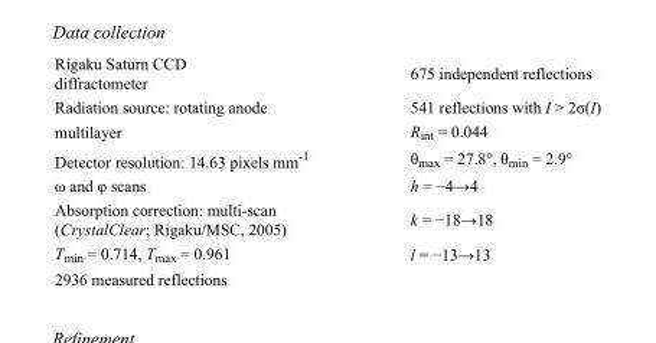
<table><tbody><tr><td>Rigaku Saturn CCD diffractometer</td><td>675 independent reflections</td></tr><tr><td>Radiation source: rotating anode</td><td>541 reflections with I &gt; 2σ(I)</td></tr><tr><td>multilayer</td><td>R<sub>int</sub> = 0.044</td></tr><tr><td>Detector resolution: 14.63 pixels mm<sup>-1</sup></td><td>θ<sub>max</sub> = 27.8°, θ<sub>min</sub> = 2.9°</td></tr><tr><td>ω and φ scans</td><td>h = −4→4</td></tr><tr><td>Absorption correction: multi-scan (CrystalClear; Rigaku/MSC, 2005)</td><td>k = −18→18</td></tr><tr><td>T<sub>min</sub> = 0.714, T<sub>max</sub> = 0.961</td><td>l = −13→13</td></tr><tr><td>2936 measured reflections</td><td></td></tr></tbody></table>